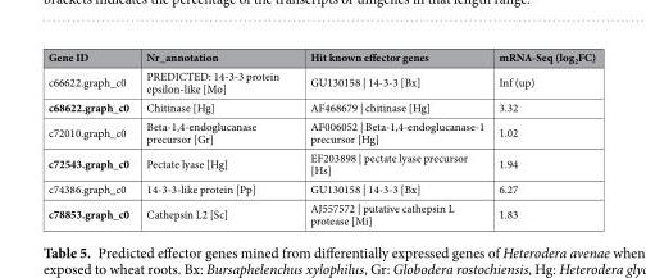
<table><thead><tr><td>Gene ID</td><td>Nr_annotation</td><td>Hit known effector genes</td><td>mRNA-Seq (log<sub>2</sub>FC)</td></tr></thead><tbody><tr><td>c66622.graph_c0</td><td>PREDICTED: 14-3-3 protein epsilon-like [Mo]</td><td>GU130158 | 14-3-3 [Bx]</td><td>Inf (up)</td></tr><tr><td>c68622.graph_c0</td><td>Chitinase [Hg]</td><td>AF468679 | chitinase [Hg]</td><td>3.32</td></tr><tr><td>c72010.graph_c0</td><td>Beta-1,4-endoglucanase precursor [Gr]</td><td>AF006052 | Beta-1,4-endoglucanase-1 precursor [Hg]</td><td>1.02</td></tr><tr><td>c72543.graph_c0</td><td>Pectate lyase [Hg]</td><td>EF203898 | pectate lyase precursor [Hs]</td><td>1.94</td></tr><tr><td>c74386.graph_c0</td><td>14-3-3-like protein [Pp]</td><td>GU130158 | 14-3-3 [Bx]</td><td>6.27</td></tr><tr><td>c78853.graph_c0</td><td>Cathepsin L2 [Sc]</td><td>AJ557572 | putative cathepsin L protease [Mi]</td><td>1.83</td></tr></tbody></table>